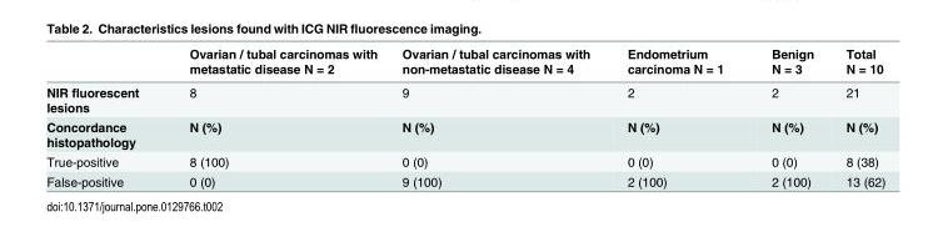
<table><thead><tr><td></td><td>Ovarian / tubal carcinomas with metastatic disease N = 2</td><td>Ovarian / tubal carcinomas with non-metastatic disease N = 4</td><td>Endometrium carcinoma N = 1</td><td>Benign N = 3</td><td>Total N = 10</td></tr></thead><tbody><tr><td>NIR fluorescent lesions</td><td>8</td><td>9</td><td>2</td><td>2</td><td>21</td></tr><tr><td>Concordance histopathology</td><td>N (%)</td><td>N (%)</td><td>N (%)</td><td>N (%)</td><td>N (%)</td></tr><tr><td>True-positive</td><td>8 (100)</td><td>0 (0)</td><td>0 (0)</td><td>0 (0)</td><td>8 (38)</td></tr><tr><td>False-positive</td><td>0 (0)</td><td>9 (100)</td><td>2 (100)</td><td>2 (100)</td><td>13 (62)</td></tr></tbody></table>